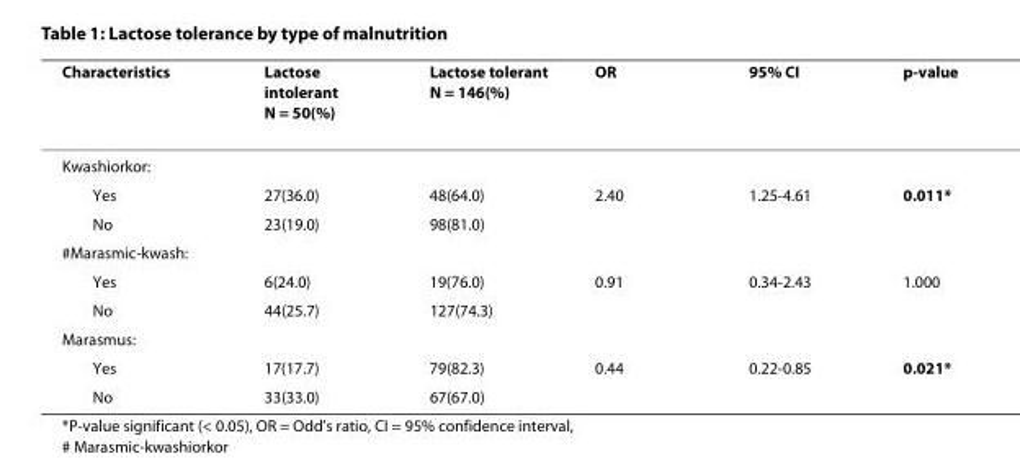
<table><thead><tr><td>Characteristics</td><td>Lactose intolerant N = 50(%)</td><td>Lactose tolerant N = 146(%)</td><td>OR</td><td>95% CI</td><td>p-value</td></tr></thead><tbody><tr><td colspan="6">Kwashiorkor:</td></tr><tr><td>Yes</td><td>27(36.0)</td><td>48(64.0)</td><td>2.40</td><td>1.25-4.61</td><td>0.011*</td></tr><tr><td>No</td><td>23(19.0)</td><td>98(81.0)</td><td></td><td></td><td></td></tr><tr><td colspan="6">#Marasmic-kwash:</td></tr><tr><td>Yes</td><td>6(24.0)</td><td>19(76.0)</td><td>0.91</td><td>0.34-2.43</td><td>1.000</td></tr><tr><td>No</td><td>44(25.7)</td><td>127(74.3)</td><td></td><td></td><td></td></tr><tr><td colspan="6">Marasmus:</td></tr><tr><td>Yes</td><td>17(17.7)</td><td>79(82.3)</td><td>0.44</td><td>0.22-0.85</td><td>0.021*</td></tr><tr><td>No</td><td>33(33.0)</td><td>67(67.0)</td><td></td><td></td><td></td></tr></tbody></table>